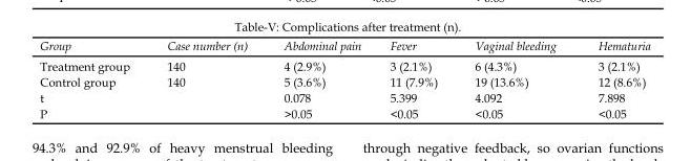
<table><thead><tr><td>Group</td><td>Case number (n)</td><td>Abdominal pain</td><td>Fever</td><td>Vaginal bleeding</td><td>Hematuria</td></tr></thead><tbody><tr><td>Treatment group</td><td>140</td><td>4 (2.9%)</td><td>3 (2.1%)</td><td>6 (4.3%)</td><td>3 (2.1%)</td></tr><tr><td>Control group</td><td>140</td><td>5 (3.6%)</td><td>11 (7.9%)</td><td>19 (13.6%)</td><td>12 (8.6%)</td></tr><tr><td>t</td><td></td><td>0.078</td><td>5.399</td><td>4.092</td><td>7.898</td></tr><tr><td>P</td><td></td><td>&gt;0.05</td><td>&lt;0.05</td><td>&lt;0.05</td><td>&lt;0.05</td></tr></tbody></table>